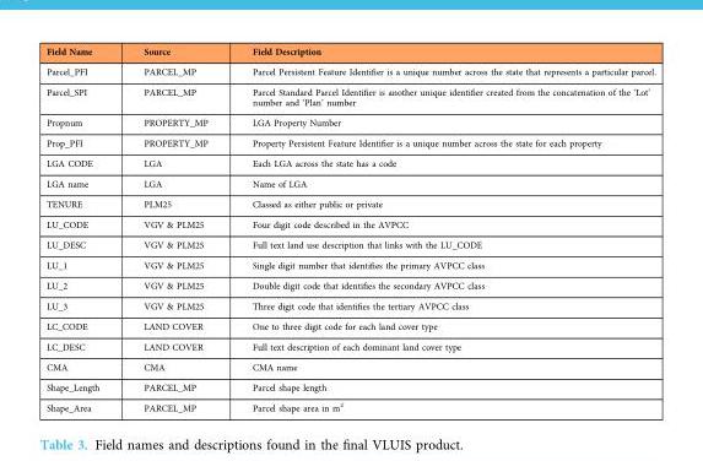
<table><thead><tr><td>Field Name</td><td>Source</td><td>Field Description</td></tr></thead><tbody><tr><td>Parcel_PFI</td><td>PARCEL_MP</td><td>Parcel Persistent Feature Identifier is a unique number across the state that represents a particular parcel.</td></tr><tr><td>Parcel_SPI</td><td>PARCEL_MP</td><td>Parcel Standard Parcel Identifier is another unique identifier created from the concatenation of the ‘Lot’ number and ‘Plan’ number</td></tr><tr><td>Propnum</td><td>PROPERTY_MP</td><td>LGA Property Number</td></tr><tr><td>Prop_PFI</td><td>PROPERTY_MP</td><td>Property Persistent Feature Identifier is a unique number across the state for each property</td></tr><tr><td>LGA CODE</td><td>LGA</td><td>Each LGA across the state has a code</td></tr><tr><td>LGA name</td><td>LGA</td><td>Name of LGA</td></tr><tr><td>TENURE</td><td>PLM25</td><td>Classed as either public or private</td></tr><tr><td>LU_CODE</td><td>VGV &amp; PLM25</td><td>Four digit code described in the AVPCC</td></tr><tr><td>LU_DESC</td><td>VGV &amp; PLM25</td><td>Full text land use description that links with the LU_CODE</td></tr><tr><td>LU_1</td><td>VGV &amp; PLM25</td><td>Single digit number that identifies the primary AVPCC class</td></tr><tr><td>LU_2</td><td>VGV &amp; PLM25</td><td>Double digit code that identifies the secondary AVPCC class</td></tr><tr><td>LU_3</td><td>VGV &amp; PLM25</td><td>Three digit code that identifies the tertiary AVPCC class</td></tr><tr><td>LC_CODE</td><td>LAND COVER</td><td>One to three digit code for each land cover type</td></tr><tr><td>LC_DESC</td><td>LAND COVER</td><td>Full text description of each dominant land cover type</td></tr><tr><td>CMA</td><td>CMA</td><td>CMA name</td></tr><tr><td>Shape_Length</td><td>PARCEL_MP</td><td>Parcel shape length</td></tr><tr><td>Shape_Area</td><td>PARCEL_MP</td><td>Parcel shape area in m<sup>2</sup></td></tr></tbody></table>